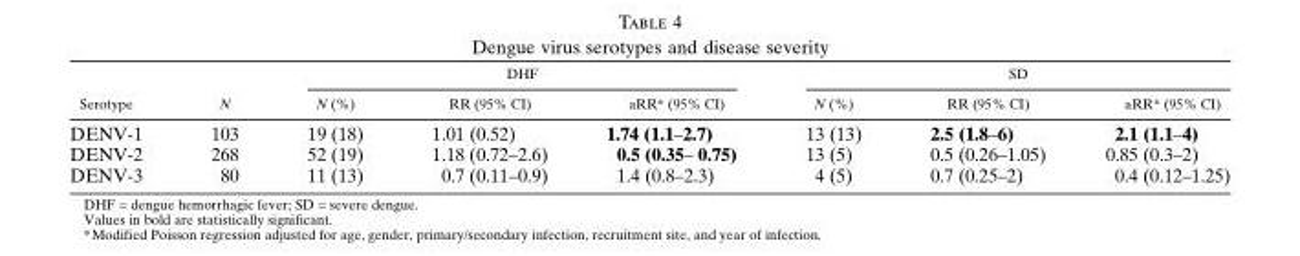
<table><thead><tr><td rowspan="2">Serotype</td><td rowspan="2">N</td><td colspan="3">DHF</td><td colspan="3">SD</td></tr><tr><td>N (%)</td><td>RR (95% CI)</td><td>aRR* (95% CI)</td><td>N (%)</td><td>RR (95% CI)</td><td>aRR* (95% CI)</td></tr></thead><tbody><tr><td>DENV-1</td><td>103</td><td>19 (18)</td><td>1.01 (0.52)</td><td>1.74 (1.1–2.7)</td><td>13 (13)</td><td>2.5 (1.8–6)</td><td>2.1 (1.1–4)</td></tr><tr><td>DENV-2</td><td>268</td><td>52 (19)</td><td>1.18 (0.72–2.6)</td><td>0.5 (0.35– 0.75)</td><td>13 (5)</td><td>0.5 (0.26–1.05)</td><td>0.85 (0.3–2)</td></tr><tr><td>DENV-3</td><td>80</td><td>11 (13)</td><td>0.7 (0.11–0.9)</td><td>1.4 (0.8–2.3)</td><td>4 (5)</td><td>0.7 (0.25–2)</td><td>0.4 (0.12–1.25)</td></tr></tbody></table>